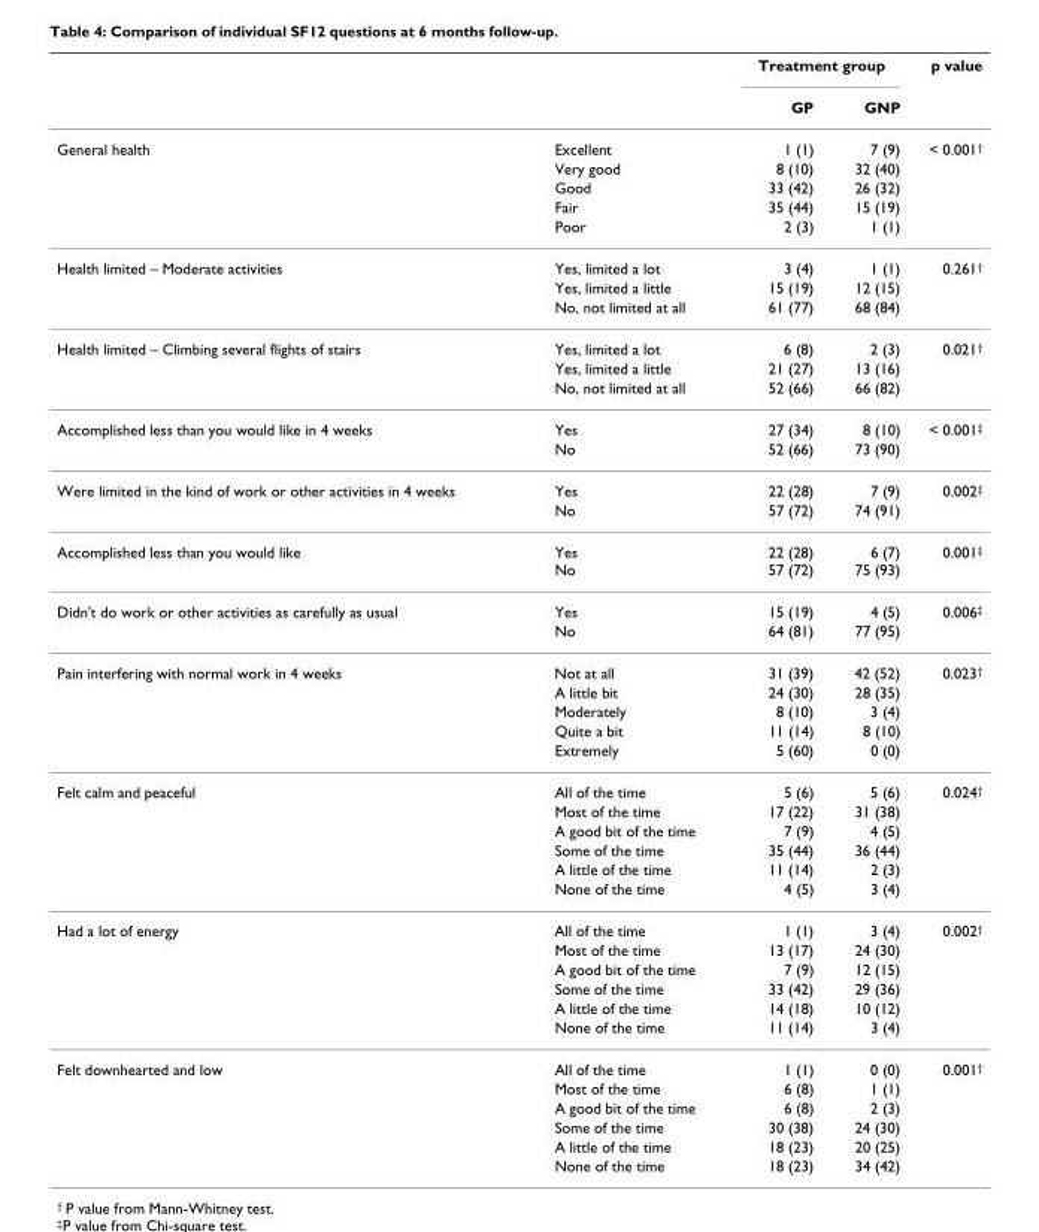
<table><thead><tr><td rowspan="2"></td><td rowspan="2"></td><td colspan="2">Treatment group</td><td rowspan="2">p value</td></tr><tr><td>GP</td><td>GNP</td></tr></thead><tbody><tr><td rowspan="5">General health</td><td>Excellent</td><td>1 (1)</td><td>7 (9)</td><td>&lt; 0.001<sup>†</sup></td></tr><tr><td>Very good</td><td>8 (10)</td><td>32 (40)</td><td></td></tr><tr><td>Good</td><td>33 (42)</td><td>26 (32)</td><td></td></tr><tr><td>Fair</td><td>35 (44)</td><td>15 (19)</td><td></td></tr><tr><td>Poor</td><td>2 (3)</td><td>1 (1)</td><td></td></tr><tr><td rowspan="3">Health limited – Moderate activities</td><td>Yes, limited a lot</td><td>3 (4)</td><td>1 (1)</td><td>0.261<sup>†</sup></td></tr><tr><td>Yes, limited a little</td><td>15 (19)</td><td>12 (15)</td><td></td></tr><tr><td>No, not limited at all</td><td>61 (77)</td><td>68 (84)</td><td></td></tr><tr><td rowspan="3">Health limited – Climbing several flights of stairs</td><td>Yes, limited a lot</td><td>6 (8)</td><td>2 (3)</td><td>0.021<sup>†</sup></td></tr><tr><td>Yes, limited a little</td><td>21 (27)</td><td>13 (16)</td><td></td></tr><tr><td>No, not limited at all</td><td>52 (66)</td><td>66 (82)</td><td></td></tr><tr><td rowspan="2">Accomplished less than you would like in 4 weeks</td><td>Yes</td><td>27 (34)</td><td>8 (10)</td><td>&lt; 0.001<sup>‡</sup></td></tr><tr><td>No</td><td>52 (66)</td><td>73 (90)</td><td></td></tr><tr><td rowspan="2">Were limited in the kind of work or other activities in 4 weeks</td><td>Yes</td><td>22 (28)</td><td>7 (9)</td><td>0.002<sup>‡</sup></td></tr><tr><td>No</td><td>57 (72)</td><td>74 (91)</td><td></td></tr><tr><td>Accomplished less than you would like</td><td>Yes No</td><td>22 (28) 57 (72)</td><td>6 (7) 75 (93)</td><td>0.001<sup>‡</sup></td></tr><tr><td rowspan="2">Didn&#x27;t do work or other activities as carefully as usual</td><td>Yes</td><td>15 (19)</td><td>4 (5)</td><td>0.006<sup>‡</sup></td></tr><tr><td>No</td><td>64 (81)</td><td>77 (95)</td><td></td></tr><tr><td rowspan="5">Pain interfering with normal work in 4 weeks</td><td>Not at all</td><td>31 (39)</td><td>42 (52)</td><td>0.023<sup>†</sup></td></tr><tr><td>A little bit</td><td>24 (30)</td><td>28 (35)</td><td></td></tr><tr><td>Moderately</td><td>8 (10)</td><td>3 (4)</td><td></td></tr><tr><td>Quite a bit</td><td>11 (14)</td><td>8 (10)</td><td></td></tr><tr><td>Extremely</td><td>5 (60)</td><td>0 (0)</td><td></td></tr><tr><td rowspan="6">Felt calm and peaceful</td><td>All of the time</td><td>5 (6)</td><td>5 (6)</td><td>0.024<sup>†</sup></td></tr><tr><td>Most of the time</td><td>17 (22)</td><td>31 (38)</td><td></td></tr><tr><td>A good bit of the time</td><td>7 (9)</td><td>4 (5)</td><td></td></tr><tr><td>Some of the time</td><td>35 (44)</td><td>36 (44)</td><td></td></tr><tr><td>A little of the time</td><td>11 (14)</td><td>2 (3)</td><td></td></tr><tr><td>None of the time</td><td>4 (5)</td><td>3 (4)</td><td></td></tr><tr><td rowspan="6">Had a lot of energy</td><td>All of the time</td><td>1 (1)</td><td>3 (4)</td><td>0.002<sup>†</sup></td></tr><tr><td>Most of the time</td><td>13 (17)</td><td>24 (30)</td><td></td></tr><tr><td>A good bit of the time</td><td>7 (9)</td><td>12 (15)</td><td></td></tr><tr><td>Some of the time</td><td>33 (42)</td><td>29 (36)</td><td></td></tr><tr><td>A little of the time</td><td>14 (18)</td><td>10 (12)</td><td></td></tr><tr><td>None of the time</td><td>11 (14)</td><td>3 (4)</td><td></td></tr><tr><td rowspan="6">Felt downhearted and low</td><td>All of the time</td><td>1 (1)</td><td>0 (0)</td><td>0.001<sup>†</sup></td></tr><tr><td>Most of the time</td><td>6 (8)</td><td>1 (1)</td><td></td></tr><tr><td>A good bit of the time</td><td>6 (8)</td><td>2 (3)</td><td></td></tr><tr><td>Some of the time</td><td>30 (38)</td><td>24 (30)</td><td></td></tr><tr><td>A little of the time</td><td>18 (23)</td><td>20 (25)</td><td></td></tr><tr><td>None of the time</td><td>18 (23)</td><td>34 (42)</td><td></td></tr></tbody></table>